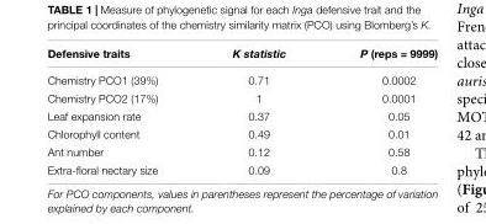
<table><thead><tr><td>Defensive traits</td><td>K statistic</td><td>P (reps = 9999)</td></tr></thead><tbody><tr><td>Chemistry PCO1 (39%)</td><td>0.71</td><td>0.0002</td></tr><tr><td>Chemistry PCO2 (17%)</td><td>1</td><td>0.0001</td></tr><tr><td>Leaf expansion rate</td><td>0.37</td><td>0.05</td></tr><tr><td>Chlorophyll content</td><td>0.49</td><td>0.01</td></tr><tr><td>Ant number</td><td>0.12</td><td>0.58</td></tr><tr><td>Extra-floral nectary size</td><td>0.09</td><td>0.8</td></tr></tbody></table>